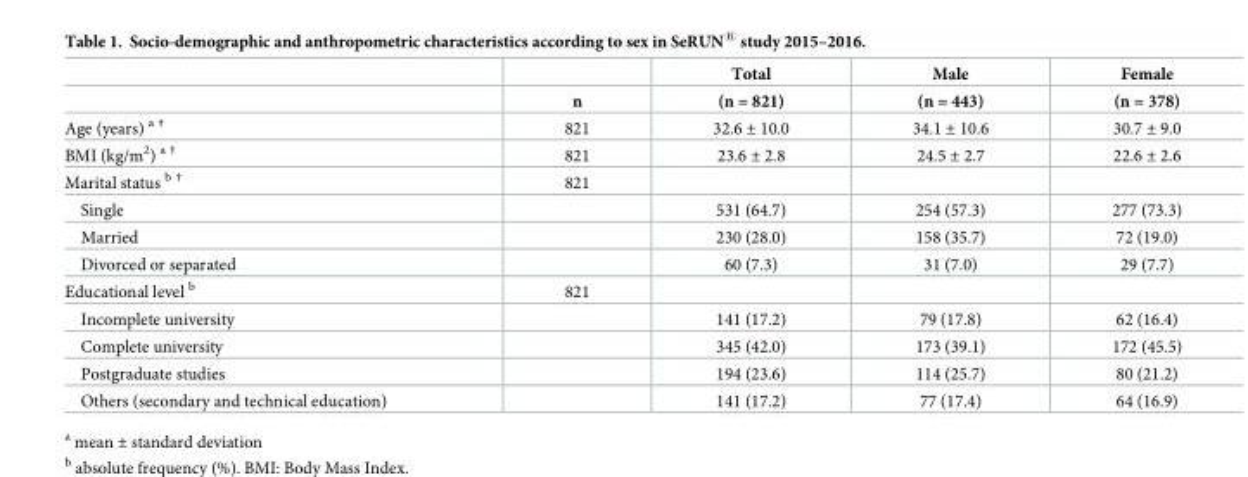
<table><thead><tr><td rowspan="2"></td><td rowspan="2">n</td><td rowspan="2">Total (n = 821)</td><td rowspan="2">Male (n = 443)</td><td rowspan="2">Female (n = 378)</td></tr><tr></tr></thead><tbody><tr><td>Age (years) <sup>a †</sup></td><td>821</td><td>32.6 ± 10.0</td><td>34.1 ± 10.6</td><td>30.7 ± 9.0</td></tr><tr><td>BMI (kg/m<sup>2</sup>) <sup>a †</sup></td><td>821</td><td>23.6 ± 2.8</td><td>24.5 ± 2.7</td><td>22.6 ± 2.6</td></tr><tr><td>Marital status <sup>b †</sup></td><td>821</td><td></td><td></td><td></td></tr><tr><td>Single</td><td></td><td>531 (64.7)</td><td>254 (57.3)</td><td>277 (73.3)</td></tr><tr><td>Married</td><td></td><td>230 (28.0)</td><td>158 (35.7)</td><td>72 (19.0)</td></tr><tr><td>Divorced or separated</td><td></td><td>60 (7.3)</td><td>31 (7.0)</td><td>29 (7.7)</td></tr><tr><td>Educational level <sup>b</sup></td><td>821</td><td></td><td></td><td></td></tr><tr><td>Incomplete university</td><td></td><td>141 (17.2)</td><td>79 (17.8)</td><td>62 (16.4)</td></tr><tr><td>Complete university</td><td></td><td>345 (42.0)</td><td>173 (39.1)</td><td>172 (45.5)</td></tr><tr><td>Postgraduate studies</td><td></td><td>194 (23.6)</td><td>114 (25.7)</td><td>80 (21.2)</td></tr><tr><td>Others (secondary and technical education)</td><td></td><td>141 (17.2)</td><td>77 (17.4)</td><td>64 (16.9)</td></tr></tbody></table>